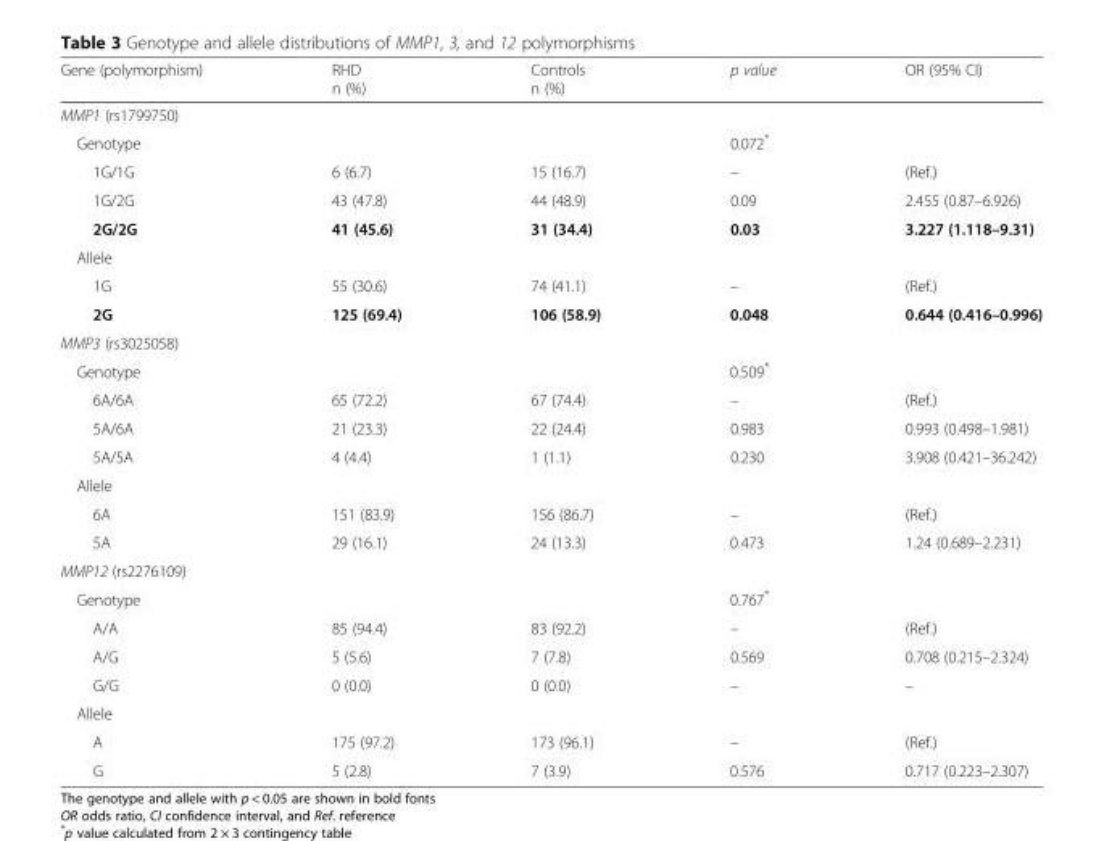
<table><thead><tr><td>Gene (polymorphism)</td><td>RHD n (%)</td><td>Controls n (%)</td><td>p value</td><td>OR (95% CI)</td></tr></thead><tbody><tr><td colspan="5">MMP1 (rs1799750)</td></tr><tr><td>Genotype</td><td></td><td></td><td>0.072*</td><td></td></tr><tr><td>1G/1G</td><td>6 (6.7)</td><td>15 (16.7)</td><td>–</td><td>(Ref.)</td></tr><tr><td>1G/2G</td><td>43 (47.8)</td><td>44 (48.9)</td><td>0.09</td><td>2.455 (0.87–6.926)</td></tr><tr><td>2G/2G</td><td>41 (45.6)</td><td>31 (34.4)</td><td>0.03</td><td>3.227 (1.118–9.31)</td></tr><tr><td colspan="5">Allele</td></tr><tr><td>1G</td><td>55 (30.6)</td><td>74 (41.1)</td><td>–</td><td>(Ref.)</td></tr><tr><td>2G</td><td>125 (69.4)</td><td>106 (58.9)</td><td>0.048</td><td>0.644 (0.416–0.996)</td></tr><tr><td colspan="5">MMP3 (rs3025058)</td></tr><tr><td>Genotype</td><td></td><td></td><td>0.509*</td><td></td></tr><tr><td>6A/6A</td><td>65 (72.2)</td><td>67 (74.4)</td><td>–</td><td>(Ref.)</td></tr><tr><td>5A/6A</td><td>21 (23.3)</td><td>22 (24.4)</td><td>0.983</td><td>0.993 (0.498–1.981)</td></tr><tr><td>5A/5A</td><td>4 (4.4)</td><td>1 (1.1)</td><td>0.230</td><td>3.908 (0.421–36.242)</td></tr><tr><td colspan="5">Allele</td></tr><tr><td>6A</td><td>151 (83.9)</td><td>156 (86.7)</td><td>–</td><td>(Ref.)</td></tr><tr><td>5A</td><td>29 (16.1)</td><td>24 (13.3)</td><td>0.473</td><td>1.24 (0.689–2.231)</td></tr><tr><td colspan="5">MMP12 (rs2276109)</td></tr><tr><td>Genotype</td><td></td><td></td><td>0.767*</td><td></td></tr><tr><td>A/A</td><td>85 (94.4)</td><td>83 (92.2)</td><td>–</td><td>(Ref.)</td></tr><tr><td>A/G</td><td>5 (5.6)</td><td>7 (7.8)</td><td>0.569</td><td>0.708 (0.215–2.324)</td></tr><tr><td>G/G</td><td>0 (0.0)</td><td>0 (0.0)</td><td>–</td><td>–</td></tr><tr><td colspan="5">Allele</td></tr><tr><td>A</td><td>175 (97.2)</td><td>173 (96.1)</td><td>–</td><td>(Ref.)</td></tr><tr><td>G</td><td>5 (2.8)</td><td>7 (3.9)</td><td>0.576</td><td>0.717 (0.223–2.307)</td></tr></tbody></table>